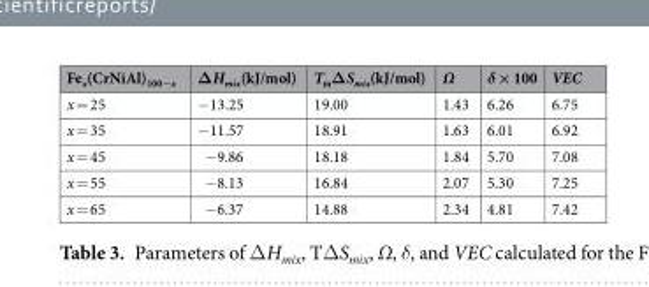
<table><thead><tr><td>Fe<sub>x</sub>(CrNiAl)<sub>100−x</sub></td><td>ΔH<sub>mix</sub>(kJ/mol)</td><td>T<sub>m</sub>ΔS<sub>mix</sub>(kJ/mol)</td><td>Ω</td><td>δ × 100</td><td>VEC</td></tr></thead><tbody><tr><td>x = 25</td><td>−13.25</td><td>19.00</td><td>1.43</td><td>6.26</td><td>6.75</td></tr><tr><td>x = 35</td><td>−11.57</td><td>18.91</td><td>1.63</td><td>6.01</td><td>6.92</td></tr><tr><td>x = 45</td><td>−9.86</td><td>18.18</td><td>1.84</td><td>5.70</td><td>7.08</td></tr><tr><td>x = 55</td><td>−8.13</td><td>16.84</td><td>2.07</td><td>5.30</td><td>7.25</td></tr><tr><td>x = 65</td><td>−6.37</td><td>14.88</td><td>2.34</td><td>4.81</td><td>7.42</td></tr></tbody></table>